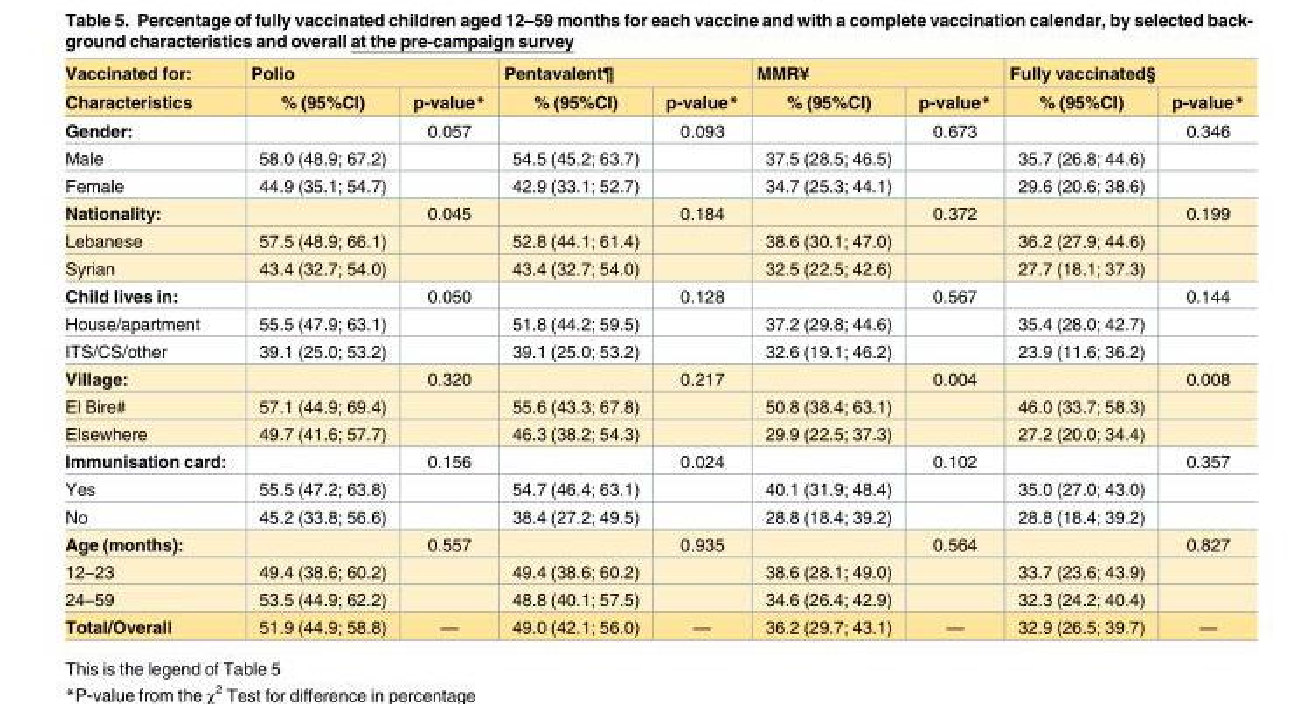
<table><thead><tr><td rowspan="2">Vaccinated for: Characteristics</td><td colspan="2">Polio</td><td colspan="2">Pentavalent¶</td><td colspan="2">MMR¥</td><td colspan="2">Fully vaccinated§</td></tr><tr><td>% (95%CI)</td><td>p-value*</td><td>% (95%CI)</td><td>p-value*</td><td>% (95%CI)</td><td>p-value*</td><td>% (95%CI)</td><td>p-value*</td></tr></thead><tbody><tr><td>Gender:</td><td></td><td>0.057</td><td></td><td>0.093</td><td></td><td>0.673</td><td></td><td>0.346</td></tr><tr><td>Male</td><td>58.0 (48.9; 67.2)</td><td></td><td>54.5 (45.2; 63.7)</td><td></td><td>37.5 (28.5; 46.5)</td><td></td><td>35.7 (26.8; 44.6)</td><td></td></tr><tr><td>Female</td><td>44.9 (35.1; 54.7)</td><td></td><td>42.9 (33.1; 52.7)</td><td></td><td>34.7 (25.3; 44.1)</td><td></td><td>29.6 (20.6; 38.6)</td><td></td></tr><tr><td>Nationality:</td><td></td><td>0.045</td><td></td><td>0.184</td><td></td><td>0.372</td><td></td><td>0.199</td></tr><tr><td>Lebanese</td><td>57.5 (48.9; 66.1)</td><td></td><td>52.8 (44.1; 61.4)</td><td></td><td>38.6 (30.1; 47.0)</td><td></td><td>36.2 (27.9; 44.6)</td><td></td></tr><tr><td>Syrian</td><td>43.4 (32.7; 54.0)</td><td></td><td>43.4 (32.7; 54.0)</td><td></td><td>32.5 (22.5; 42.6)</td><td></td><td>27.7 (18.1; 37.3)</td><td></td></tr><tr><td>Child lives in:</td><td></td><td>0.050</td><td></td><td>0.128</td><td></td><td>0.567</td><td></td><td>0.144</td></tr><tr><td>House/apartment</td><td>55.5 (47.9; 63.1)</td><td></td><td>51.8 (44.2; 59.5)</td><td></td><td>37.2 (29.8; 44.6)</td><td></td><td>35.4 (28.0; 42.7)</td><td></td></tr><tr><td>ITS/CS/other</td><td>39.1 (25.0; 53.2)</td><td></td><td>39.1 (25.0; 53.2)</td><td></td><td>32.6 (19.1; 46.2)</td><td></td><td>23.9 (11.6; 36.2)</td><td></td></tr><tr><td>Village:</td><td></td><td>0.320</td><td></td><td>0.217</td><td></td><td>0.004</td><td></td><td>0.008</td></tr><tr><td>El Bire#</td><td>57.1 (44.9; 69.4)</td><td></td><td>55.6 (43.3; 67.8)</td><td></td><td>50.8 (38.4; 63.1)</td><td></td><td>46.0 (33.7; 58.3)</td><td></td></tr><tr><td>Elsewhere</td><td>49.7 (41.6; 57.7)</td><td></td><td>46.3 (38.2; 54.3)</td><td></td><td>29.9 (22.5; 37.3)</td><td></td><td>27.2 (20.0; 34.4)</td><td></td></tr><tr><td>Immunisation card:</td><td></td><td>0.156</td><td></td><td>0.024</td><td></td><td>0.102</td><td></td><td>0.357</td></tr><tr><td>Yes</td><td>55.5 (47.2; 63.8)</td><td></td><td>54.7 (46.4; 63.1)</td><td></td><td>40.1 (31.9; 48.4)</td><td></td><td>35.0 (27.0; 43.0)</td><td></td></tr><tr><td>No</td><td>45.2 (33.8; 56.6)</td><td></td><td>38.4 (27.2; 49.5)</td><td></td><td>28.8 (18.4; 39.2)</td><td></td><td>28.8 (18.4; 39.2)</td><td></td></tr><tr><td>Age (months):</td><td></td><td>0.557</td><td></td><td>0.935</td><td></td><td>0.564</td><td></td><td>0.827</td></tr><tr><td>12–23</td><td>49.4 (38.6; 60.2)</td><td></td><td>49.4 (38.6; 60.2)</td><td></td><td>38.6 (28.1; 49.0)</td><td></td><td>33.7 (23.6; 43.9)</td><td></td></tr><tr><td>24–59</td><td>53.5 (44.9; 62.2)</td><td></td><td>48.8 (40.1; 57.5)</td><td></td><td>34.6 (26.4; 42.9)</td><td></td><td>32.3 (24.2; 40.4)</td><td></td></tr><tr><td>Total/Overall</td><td>51.9 (44.9; 58.8)</td><td>—</td><td>49.0 (42.1; 56.0)</td><td>—</td><td>36.2 (29.7; 43.1)</td><td>—</td><td>32.9 (26.5; 39.7)</td><td>—</td></tr></tbody></table>